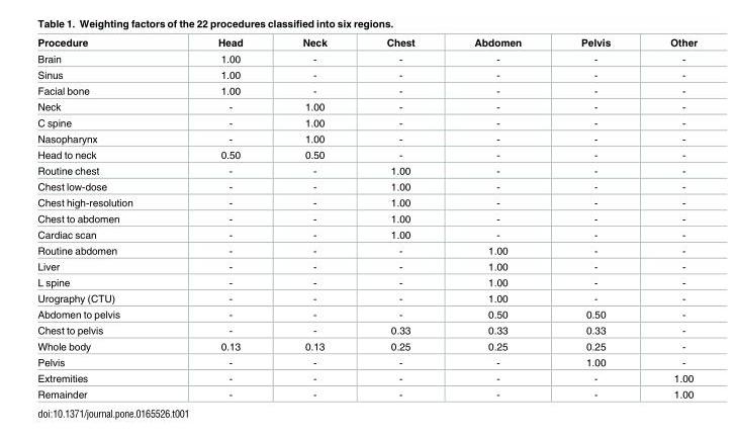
<table><thead><tr><td>Procedure</td><td>Head</td><td>Neck</td><td>Chest</td><td>Abdomen</td><td>Pelvis</td><td>Other</td></tr></thead><tbody><tr><td>Brain</td><td>1.00</td><td>-</td><td>-</td><td>-</td><td>-</td><td>-</td></tr><tr><td>Sinus</td><td>1.00</td><td>-</td><td>-</td><td>-</td><td>-</td><td>-</td></tr><tr><td>Facial bone</td><td>1.00</td><td>-</td><td>-</td><td>-</td><td>-</td><td>-</td></tr><tr><td>Neck</td><td>-</td><td>1.00</td><td>-</td><td>-</td><td>-</td><td>-</td></tr><tr><td>C spine</td><td>-</td><td>1.00</td><td>-</td><td>-</td><td>-</td><td>-</td></tr><tr><td>Nasopharynx</td><td>-</td><td>1.00</td><td>-</td><td>-</td><td>-</td><td>-</td></tr><tr><td>Head to neck</td><td>0.50</td><td>0.50</td><td>-</td><td>-</td><td>-</td><td>-</td></tr><tr><td>Routine chest</td><td>-</td><td>-</td><td>1.00</td><td>-</td><td>-</td><td>-</td></tr><tr><td>Chest low-dose</td><td>-</td><td>-</td><td>1.00</td><td>-</td><td>-</td><td>-</td></tr><tr><td>Chest high-resolution</td><td>-</td><td>-</td><td>1.00</td><td>-</td><td>-</td><td>-</td></tr><tr><td>Chest to abdomen</td><td>-</td><td>-</td><td>1.00</td><td>-</td><td>-</td><td>-</td></tr><tr><td>Cardiac scan</td><td>-</td><td>-</td><td>1.00</td><td>-</td><td>-</td><td>-</td></tr><tr><td>Routine abdomen</td><td>-</td><td>-</td><td>-</td><td>1.00</td><td>-</td><td>-</td></tr><tr><td>Liver</td><td>-</td><td>-</td><td>-</td><td>1.00</td><td>-</td><td>-</td></tr><tr><td>L spine</td><td>-</td><td>-</td><td>-</td><td>1.00</td><td>-</td><td>-</td></tr><tr><td>Urography (CTU)</td><td>-</td><td>-</td><td>-</td><td>1.00</td><td>-</td><td>-</td></tr><tr><td>Abdomen to pelvis</td><td>-</td><td>-</td><td>-</td><td>0.50</td><td>0.50</td><td>-</td></tr><tr><td>Chest to pelvis</td><td>-</td><td>-</td><td>0.33</td><td>0.33</td><td>0.33</td><td>-</td></tr><tr><td>Whole body</td><td>0.13</td><td>0.13</td><td>0.25</td><td>0.25</td><td>0.25</td><td>-</td></tr><tr><td>Pelvis</td><td>-</td><td>-</td><td>-</td><td>-</td><td>1.00</td><td>-</td></tr><tr><td>Extremities</td><td>-</td><td>-</td><td>-</td><td>-</td><td>-</td><td>1.00</td></tr><tr><td>Remainder</td><td>-</td><td>-</td><td>-</td><td>-</td><td>-</td><td>1.00</td></tr></tbody></table>